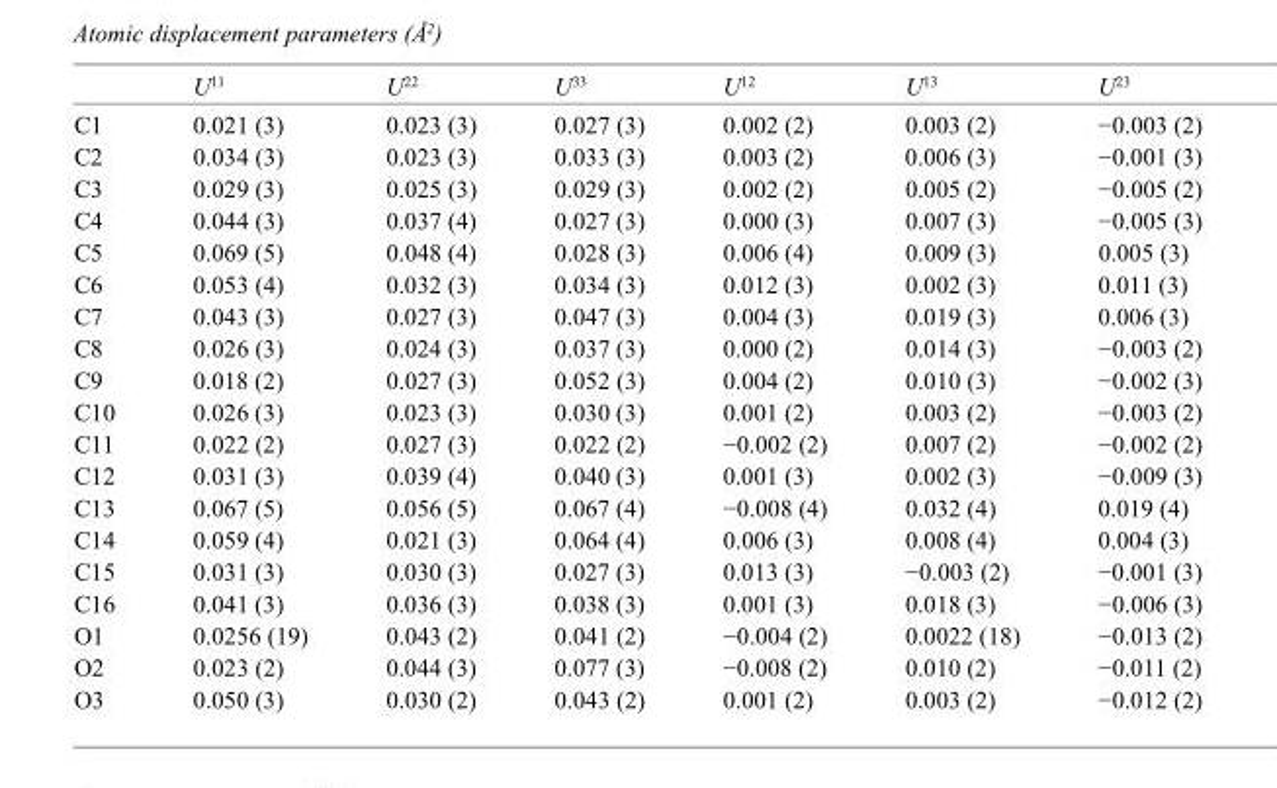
<table><thead><tr><td></td><td>U<sup>11</sup></td><td>U<sup>22</sup></td><td>U<sup>33</sup></td><td>U<sup>12</sup></td><td>U<sup>13</sup></td><td>U<sup>23</sup></td></tr></thead><tbody><tr><td>C1</td><td>0.021 (3)</td><td>0.023 (3)</td><td>0.027 (3)</td><td>0.002 (2)</td><td>0.003 (2)</td><td>−0.003 (2)</td></tr><tr><td>C2</td><td>0.034 (3)</td><td>0.023 (3)</td><td>0.033 (3)</td><td>0.003 (2)</td><td>0.006 (3)</td><td>−0.001 (3)</td></tr><tr><td>C3</td><td>0.029 (3)</td><td>0.025 (3)</td><td>0.029 (3)</td><td>0.002 (2)</td><td>0.005 (2)</td><td>−0.005 (2)</td></tr><tr><td>C4</td><td>0.044 (3)</td><td>0.037 (4)</td><td>0.027 (3)</td><td>0.000 (3)</td><td>0.007 (3)</td><td>−0.005 (3)</td></tr><tr><td>C5</td><td>0.069 (5)</td><td>0.048 (4)</td><td>0.028 (3)</td><td>0.006 (4)</td><td>0.009 (3)</td><td>0.005 (3)</td></tr><tr><td>C6</td><td>0.053 (4)</td><td>0.032 (3)</td><td>0.034 (3)</td><td>0.012 (3)</td><td>0.002 (3)</td><td>0.011 (3)</td></tr><tr><td>C7</td><td>0.043 (3)</td><td>0.027 (3)</td><td>0.047 (3)</td><td>0.004 (3)</td><td>0.019 (3)</td><td>0.006 (3)</td></tr><tr><td>C8</td><td>0.026 (3)</td><td>0.024 (3)</td><td>0.037 (3)</td><td>0.000 (2)</td><td>0.014 (3)</td><td>−0.003 (2)</td></tr><tr><td>C9</td><td>0.018 (2)</td><td>0.027 (3)</td><td>0.052 (3)</td><td>0.004 (2)</td><td>0.010 (3)</td><td>−0.002 (3)</td></tr><tr><td>C10</td><td>0.026 (3)</td><td>0.023 (3)</td><td>0.030 (3)</td><td>0.001 (2)</td><td>0.003 (2)</td><td>−0.003 (2)</td></tr><tr><td>C11</td><td>0.022 (2)</td><td>0.027 (3)</td><td>0.022 (2)</td><td>−0.002 (2)</td><td>0.007 (2)</td><td>−0.002 (2)</td></tr><tr><td>C12</td><td>0.031 (3)</td><td>0.039 (4)</td><td>0.040 (3)</td><td>0.001 (3)</td><td>0.002 (3)</td><td>−0.009 (3)</td></tr><tr><td>C13</td><td>0.067 (5)</td><td>0.056 (5)</td><td>0.067 (4)</td><td>−0.008 (4)</td><td>0.032 (4)</td><td>0.019 (4)</td></tr><tr><td>C14</td><td>0.059 (4)</td><td>0.021 (3)</td><td>0.064 (4)</td><td>0.006 (3)</td><td>0.008 (4)</td><td>0.004 (3)</td></tr><tr><td>C15</td><td>0.031 (3)</td><td>0.030 (3)</td><td>0.027 (3)</td><td>0.013 (3)</td><td>−0.003 (2)</td><td>−0.001 (3)</td></tr><tr><td>C16</td><td>0.041 (3)</td><td>0.036 (3)</td><td>0.038 (3)</td><td>0.001 (3)</td><td>0.018 (3)</td><td>−0.006 (3)</td></tr><tr><td>O1</td><td>0.0256 (19)</td><td>0.043 (2)</td><td>0.041 (2)</td><td>−0.004 (2)</td><td>0.0022 (18)</td><td>−0.013 (2)</td></tr><tr><td>O2</td><td>0.023 (2)</td><td>0.044 (3)</td><td>0.077 (3)</td><td>−0.008 (2)</td><td>0.010 (2)</td><td>−0.011 (2)</td></tr><tr><td>O3</td><td>0.050 (3)</td><td>0.030 (2)</td><td>0.043 (2)</td><td>0.001 (2)</td><td>0.003 (2)</td><td>−0.012 (2)</td></tr></tbody></table>